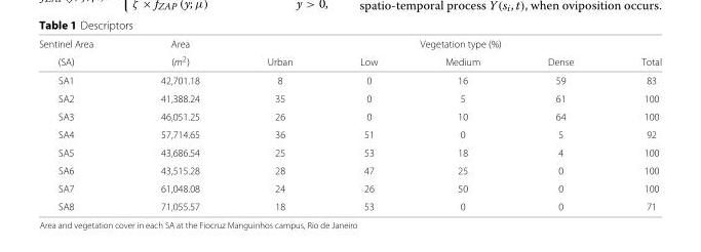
<table><thead><tr><td rowspan="2">Sentinel Area (SA)</td><td rowspan="2">Area (m<sup>2</sup>)</td><td colspan="5">Vegetation type (%)</td></tr><tr><td>Urban</td><td>Low</td><td>Medium</td><td>Dense</td><td>Total</td></tr></thead><tbody><tr><td>SA1</td><td>42,701.18</td><td>8</td><td>0</td><td>16</td><td>59</td><td>83</td></tr><tr><td>SA2</td><td>41,388.24</td><td>35</td><td>0</td><td>5</td><td>61</td><td>100</td></tr><tr><td>SA3</td><td>46,051.25</td><td>26</td><td>0</td><td>10</td><td>64</td><td>100</td></tr><tr><td>SA4</td><td>57,714.65</td><td>36</td><td>51</td><td>0</td><td>5</td><td>92</td></tr><tr><td>SA5</td><td>43,686.54</td><td>25</td><td>53</td><td>18</td><td>4</td><td>100</td></tr><tr><td>SA6</td><td>43,515.28</td><td>28</td><td>47</td><td>25</td><td>0</td><td>100</td></tr><tr><td>SA7</td><td>61,048.08</td><td>24</td><td>26</td><td>50</td><td>0</td><td>100</td></tr><tr><td>SA8</td><td>71,055.57</td><td>18</td><td>53</td><td>0</td><td>0</td><td>71</td></tr></tbody></table>